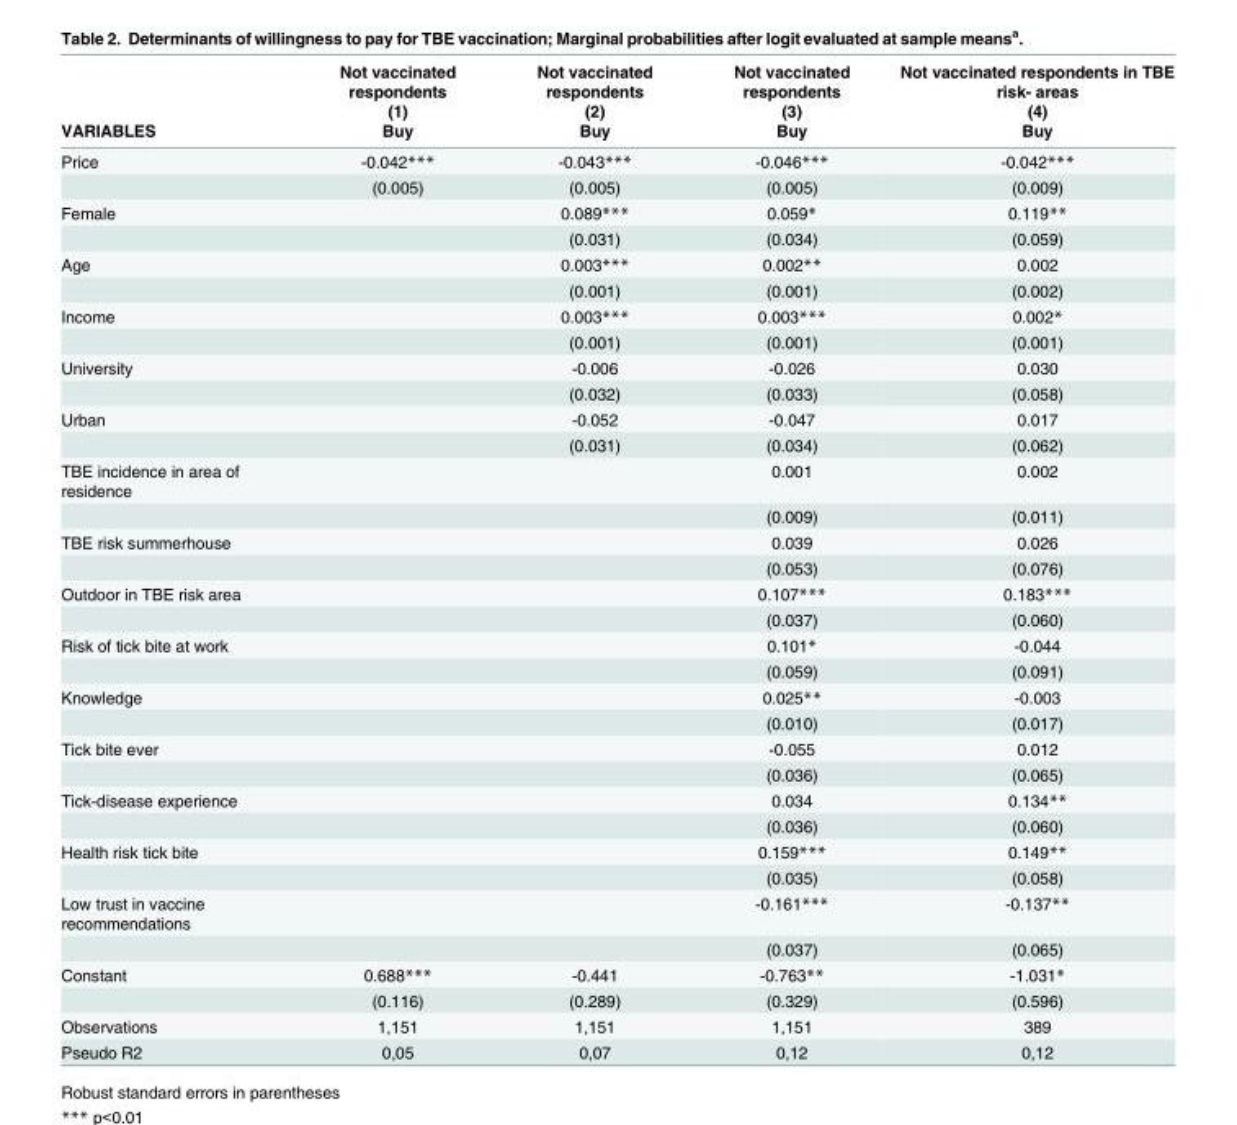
<table><thead><tr><td rowspan="3">VARIABLES</td><td rowspan="3">Not vaccinated respondents (1) Buy</td><td rowspan="3">Not vaccinated respondents (2) Buy</td><td rowspan="3">Not vaccinated respondents (3) Buy</td><td rowspan="3">Not vaccinated respondents in TBE risk- areas (4) Buy</td></tr><tr></tr><tr></tr></thead><tbody><tr><td rowspan="2">Price</td><td>-0.042***</td><td>-0.043***</td><td>-0.046***</td><td>-0.042***</td></tr><tr><td>(0.005)</td><td>(0.005)</td><td>(0.005)</td><td>(0.009)</td></tr><tr><td rowspan="2">Female</td><td></td><td>0.089***</td><td>0.059*</td><td>0.119**</td></tr><tr><td></td><td>(0.031)</td><td>(0.034)</td><td>(0.059)</td></tr><tr><td rowspan="2">Age</td><td></td><td>0.003***</td><td>0.002**</td><td>0.002</td></tr><tr><td></td><td>(0.001)</td><td>(0.001)</td><td>(0.002)</td></tr><tr><td rowspan="2">Income</td><td></td><td>0.003***</td><td>0.003***</td><td>0.002*</td></tr><tr><td></td><td>(0.001)</td><td>(0.001)</td><td>(0.001)</td></tr><tr><td rowspan="2">University</td><td></td><td>-0.006</td><td>-0.026</td><td>0.030</td></tr><tr><td></td><td>(0.032)</td><td>(0.033)</td><td>(0.058)</td></tr><tr><td rowspan="2">Urban</td><td></td><td>-0.052</td><td>-0.047</td><td>0.017</td></tr><tr><td></td><td>(0.031)</td><td>(0.034)</td><td>(0.062)</td></tr><tr><td rowspan="2">TBE incidence in area of residence</td><td></td><td></td><td>0.001</td><td>0.002</td></tr><tr><td></td><td></td><td>(0.009)</td><td>(0.011)</td></tr><tr><td rowspan="2">TBE risk summerhouse</td><td></td><td></td><td>0.039</td><td>0.026</td></tr><tr><td></td><td></td><td>(0.053)</td><td>(0.076)</td></tr><tr><td rowspan="2">Outdoor in TBE risk area</td><td></td><td></td><td>0.107***</td><td>0.183***</td></tr><tr><td></td><td></td><td>(0.037)</td><td>(0.060)</td></tr><tr><td rowspan="2">Risk of tick bite at work</td><td></td><td></td><td>0.101*</td><td>-0.044</td></tr><tr><td></td><td></td><td>(0.059)</td><td>(0.091)</td></tr><tr><td rowspan="2">Knowledge</td><td></td><td></td><td>0.025**</td><td>-0.003</td></tr><tr><td></td><td></td><td>(0.010)</td><td>(0.017)</td></tr><tr><td rowspan="2">Tick bite ever</td><td></td><td></td><td>-0.055</td><td>0.012</td></tr><tr><td></td><td></td><td>(0.036)</td><td>(0.065)</td></tr><tr><td rowspan="2">Tick-disease experience</td><td></td><td></td><td>0.034</td><td>0.134**</td></tr><tr><td></td><td></td><td>(0.036)</td><td>(0.060)</td></tr><tr><td rowspan="2">Health risk tick bite</td><td></td><td></td><td>0.159***</td><td>0.149**</td></tr><tr><td></td><td></td><td>(0.035)</td><td>(0.058)</td></tr><tr><td rowspan="2">Low trust in vaccine recommendations</td><td></td><td></td><td>-0.161***</td><td>-0.137**</td></tr><tr><td></td><td></td><td>(0.037)</td><td>(0.065)</td></tr><tr><td rowspan="2">Constant</td><td>0.688***</td><td>-0.441</td><td>-0.763**</td><td>-1.031*</td></tr><tr><td>(0.116)</td><td>(0.289)</td><td>(0.329)</td><td>(0.596)</td></tr><tr><td>Observations</td><td>1,151</td><td>1,151</td><td>1,151</td><td>389</td></tr><tr><td>Pseudo R2</td><td>0,05</td><td>0,07</td><td>0,12</td><td>0,12</td></tr></tbody></table>